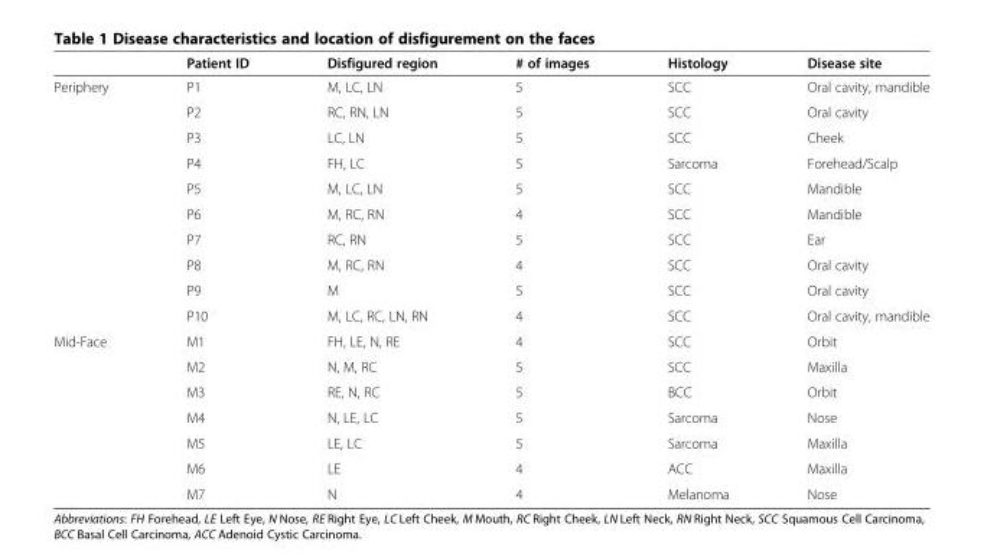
<table><thead><tr><td></td><td>Patient ID</td><td>Disfigured region</td><td># of images</td><td>Histology</td><td>Disease site</td></tr></thead><tbody><tr><td rowspan="10">Periphery</td><td>P1</td><td>M, LC, LN</td><td>5</td><td>SCC</td><td>Oral cavity, mandible</td></tr><tr><td>P2</td><td>RC, RN, LN</td><td>5</td><td>SCC</td><td>Oral cavity</td></tr><tr><td>P3</td><td>LC, LN</td><td>5</td><td>SCC</td><td>Cheek</td></tr><tr><td>P4</td><td>FH, LC</td><td>5</td><td>Sarcoma</td><td>Forehead/Scalp</td></tr><tr><td>P5</td><td>M, LC, LN</td><td>5</td><td>SCC</td><td>Mandible</td></tr><tr><td>P6</td><td>M, RC, RN</td><td>4</td><td>SCC</td><td>Mandible</td></tr><tr><td>P7</td><td>RC, RN</td><td>5</td><td>SCC</td><td>Ear</td></tr><tr><td>P8</td><td>M, RC, RN</td><td>4</td><td>SCC</td><td>Oral cavity</td></tr><tr><td>P9</td><td>M</td><td>5</td><td>SCC</td><td>Oral cavity</td></tr><tr><td>P10</td><td>M, LC, RC, LN, RN</td><td>4</td><td>SCC</td><td>Oral cavity, mandible</td></tr><tr><td rowspan="7">Mid-Face</td><td>M1</td><td>FH, LE, N, RE</td><td>4</td><td>SCC</td><td>Orbit</td></tr><tr><td>M2</td><td>N, M, RC</td><td>5</td><td>SCC</td><td>Maxilla</td></tr><tr><td>M3</td><td>RE, N, RC</td><td>5</td><td>BCC</td><td>Orbit</td></tr><tr><td>M4</td><td>N, LE, LC</td><td>5</td><td>Sarcoma</td><td>Nose</td></tr><tr><td>M5</td><td>LE, LC</td><td>5</td><td>Sarcoma</td><td>Maxilla</td></tr><tr><td>M6</td><td>LE</td><td>4</td><td>ACC</td><td>Maxilla</td></tr><tr><td>M7</td><td>N</td><td>4</td><td>Melanoma</td><td>Nose</td></tr></tbody></table>